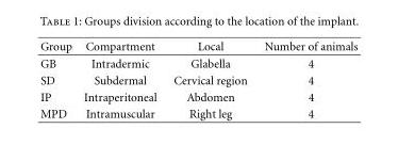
<table><thead><tr><td>Group</td><td>Compartment</td><td>Local</td><td>Number of animals</td></tr></thead><tbody><tr><td>GB</td><td>Intradermic</td><td>Glabella</td><td>4</td></tr><tr><td>SD</td><td>Subdermal</td><td>Cervical region</td><td>4</td></tr><tr><td>IP</td><td>Intraperitoneal</td><td>Abdomen</td><td>4</td></tr><tr><td>MPD</td><td>Intramuscular</td><td>Right leg</td><td>4</td></tr></tbody></table>